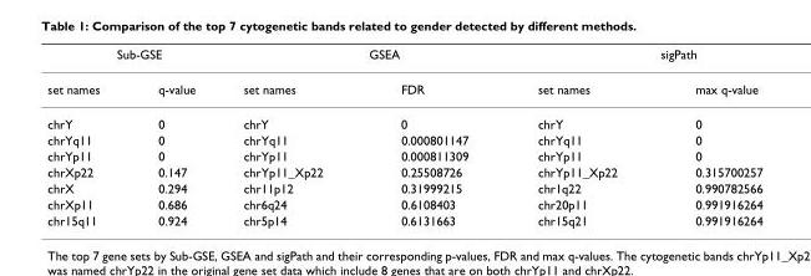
<table><thead><tr><td colspan="2">Sub-GSE</td><td colspan="2">GSEA</td><td colspan="2">sigPath</td></tr><tr><td>set names</td><td>q-value</td><td>set names</td><td>FDR</td><td>set names</td><td>max q-value</td></tr></thead><tbody><tr><td>chrY</td><td>0</td><td>chrY</td><td>0</td><td>chrY</td><td>0</td></tr><tr><td>chrYq11</td><td>0</td><td>chrYq11</td><td>0.000801147</td><td>chrYq11</td><td>0</td></tr><tr><td>chrYp11</td><td>0</td><td>chrYp11</td><td>0.000811309</td><td>chrYp11</td><td>0</td></tr><tr><td>chrXp22</td><td>0.147</td><td>chrYp11_Xp22</td><td>0.25508726</td><td>chrYp11_Xp22</td><td>0.315700257</td></tr><tr><td>chrX</td><td>0.294</td><td>chr11p12</td><td>0.31999215</td><td>chr1q22</td><td>0.990782566</td></tr><tr><td>chrXp11</td><td>0.686</td><td>chr6q24</td><td>0.6108403</td><td>chr20p11</td><td>0.991916264</td></tr><tr><td>chr15q11</td><td>0.924</td><td>chr5p14</td><td>0.6131663</td><td>chr15q21</td><td>0.991916264</td></tr></tbody></table>